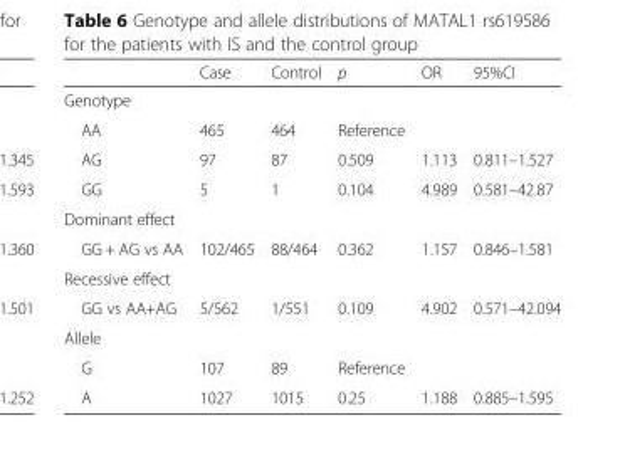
<table><thead><tr><td></td><td>Case</td><td>Control</td><td>p</td><td>OR</td><td>95%CI</td></tr></thead><tbody><tr><td colspan="6">Genotype</td></tr><tr><td>AA</td><td>465</td><td>464</td><td>Reference</td><td></td><td></td></tr><tr><td>AG</td><td>97</td><td>87</td><td>0.509</td><td>1.113</td><td>0.811–1.527</td></tr><tr><td>GG</td><td>5</td><td>1</td><td>0.104</td><td>4.989</td><td>0.581–42.87</td></tr><tr><td colspan="6">Dominant effect</td></tr><tr><td>GG + AG vs AA</td><td>102/465</td><td>88/464</td><td>0.362</td><td>1.157</td><td>0.846–1.581</td></tr><tr><td colspan="6">Recessive effect</td></tr><tr><td>GG vs AA+AG</td><td>5/562</td><td>1/551</td><td>0.109</td><td>4.902</td><td>0.571–42.094</td></tr><tr><td colspan="6">Allele</td></tr><tr><td>G</td><td>107</td><td>89</td><td>Reference</td><td></td><td></td></tr><tr><td>A</td><td>1027</td><td>1015</td><td>0.25</td><td>1.188</td><td>0.885–1.595</td></tr></tbody></table>